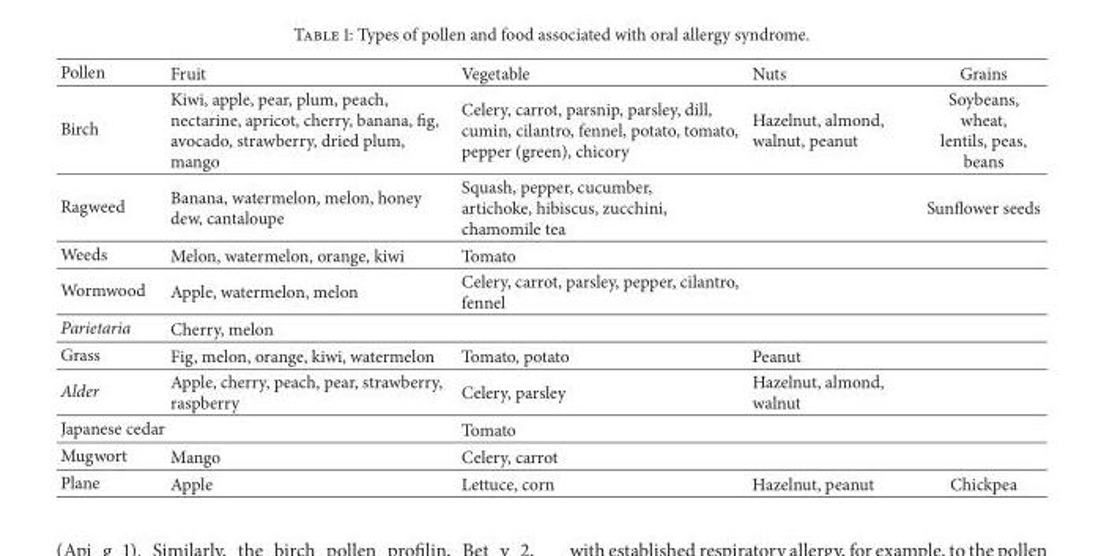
<table><thead><tr><td>Pollen</td><td>Fruit</td><td>Vegetable</td><td>Nuts</td><td>Grains</td></tr></thead><tbody><tr><td>Birch</td><td>Kiwi, apple, pear, plum, peach, nectarine, apricot, cherry, banana, fig, avocado, strawberry, dried plum, mango</td><td>Celery, carrot, parsnip, parsley, dill, cumin, cilantro, fennel, potato, tomato, pepper (green), chicory</td><td>Hazelnut, almond, walnut, peanut</td><td>Soybeans, wheat, lentils, peas, beans</td></tr><tr><td>Ragweed</td><td>Banana, watermelon, melon, honey dew, cantaloupe</td><td>Squash, pepper, cucumber, artichoke, hibiscus, zucchini, chamomile tea</td><td></td><td>Sunflower seeds</td></tr><tr><td>Weeds</td><td>Melon, watermelon, orange, kiwi</td><td>Tomato</td><td></td><td></td></tr><tr><td>Wormwood</td><td>Apple, watermelon, melon</td><td>Celery, carrot, parsley, pepper, cilantro, fennel</td><td></td><td></td></tr><tr><td>Parietaria</td><td>Cherry, melon</td><td></td><td></td><td></td></tr><tr><td>Grass</td><td>Fig, melon, orange, kiwi, watermelon</td><td>Tomato, potato</td><td>Peanut</td><td></td></tr><tr><td>Alder</td><td>Apple, cherry, peach, pear, strawberry, raspberry</td><td>Celery, parsley</td><td>Hazelnut, almond, walnut</td><td></td></tr><tr><td>Japanese cedar</td><td></td><td>Tomato</td><td></td><td></td></tr><tr><td>Mugwort</td><td>Mango</td><td>Celery, carrot</td><td></td><td></td></tr><tr><td>Plane</td><td>Apple</td><td>Lettuce, corn</td><td>Hazelnut, peanut</td><td>Chickpea</td></tr></tbody></table>